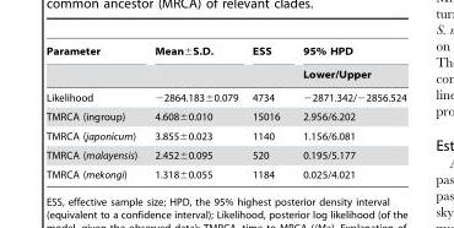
<table><thead><tr><td rowspan="2">Parameter</td><td rowspan="2">Mean±S.D.</td><td rowspan="2">ESS</td><td rowspan="2">95% HPD Lower/Upper</td></tr><tr></tr></thead><tbody><tr><td>Likelihood</td><td>−2864.183±0.079</td><td>4734</td><td>−2871.342/−2856.524</td></tr><tr><td>TMRCA (ingroup)</td><td>4.608±0.010</td><td>15016</td><td>2.956/6.202</td></tr><tr><td>TMRCA (japonicum)</td><td>3.855±0.023</td><td>1140</td><td>1.156/6.081</td></tr><tr><td>TMRCA (malayensis)</td><td>2.452±0.095</td><td>520</td><td>0.195/5.177</td></tr><tr><td>TMRCA (mekongi)</td><td>1.318±0.055</td><td>1184</td><td>0.025/4.021</td></tr></tbody></table>